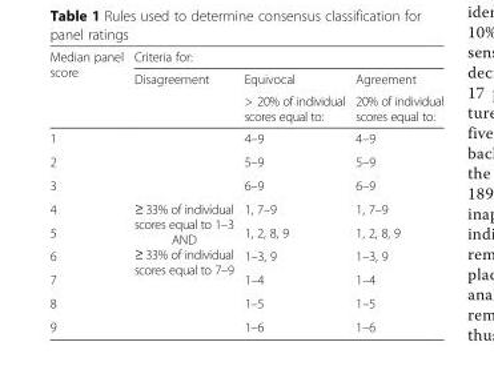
<table><thead><tr><td rowspan="3">Median panel score</td><td colspan="3">Criteria for:</td></tr><tr><td rowspan="2">Disagreement</td><td rowspan="2">Equivocal &gt; 20% of individual scores equal to:</td><td rowspan="2">Agreement 20% of individual scores equal to:</td></tr><tr></tr></thead><tbody><tr><td>1</td><td rowspan="3"></td><td>4–9</td><td>4–9</td></tr><tr><td>2</td><td>5–9</td><td>5–9</td></tr><tr><td>3</td><td>6–9</td><td>6–9</td></tr><tr><td>4</td><td rowspan="6">≥ 33% of individual scores equal to 1–3 AND ≥ 33% of individual scores equal to 7–9</td><td>1, 7–9</td><td>1, 7–9</td></tr><tr><td>5</td><td>1, 2, 8, 9</td><td>1, 2, 8, 9</td></tr><tr><td>6</td><td>1–3, 9</td><td>1–3, 9</td></tr><tr><td>7</td><td>1–4</td><td>1–4</td></tr><tr><td>8</td><td>1–5</td><td>1–5</td></tr><tr><td>9</td><td>1–6</td><td>1–6</td></tr></tbody></table>